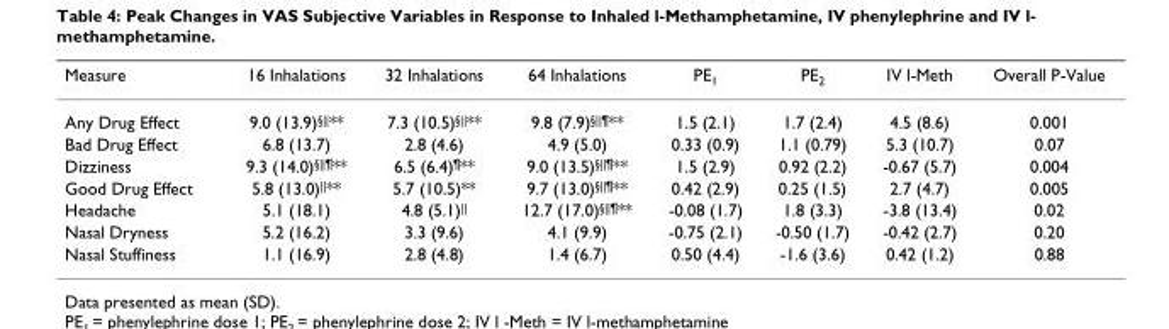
<table><thead><tr><td>Measure</td><td>16 Inhalations</td><td>32 Inhalations</td><td>64 Inhalations</td><td>PE<sub>1</sub></td><td>PE<sub>2</sub></td><td>IV l-Meth</td><td>Overall P-Value</td></tr></thead><tbody><tr><td>Any Drug Effect</td><td>9.0 (13.9)<sup>§||</sup>**</td><td>7.3 (10.5)<sup>§||</sup>**</td><td>9.8 (7.9)<sup>§||¶</sup>**</td><td>1.5 (2.1)</td><td>1.7 (2.4)</td><td>4.5 (8.6)</td><td>0.001</td></tr><tr><td>Bad Drug Effect</td><td>6.8 (13.7)</td><td>2.8 (4.6)</td><td>4.9 (5.0)</td><td>0.33 (0.9)</td><td>1.1 (0.79)</td><td>5.3 (10.7)</td><td>0.07</td></tr><tr><td>Dizziness</td><td>9.3 (14.0)<sup>§||¶</sup>**</td><td>6.5 (6.4)<sup>¶</sup>**</td><td>9.0 (13.5)<sup>§||¶</sup>**</td><td>1.5 (2.9)</td><td>0.92 (2.2)</td><td>-0.67 (5.7)</td><td>0.004</td></tr><tr><td>Good Drug Effect</td><td>5.8 (13.0)<sup>||</sup>**</td><td>5.7 (10.5)**</td><td>9.7 (13.0)<sup>§||¶</sup>**</td><td>0.42 (2.9)</td><td>0.25 (1.5)</td><td>2.7 (4.7)</td><td>0.005</td></tr><tr><td>Headache</td><td>5.1 (18.1)</td><td>4.8 (5.1)<sup>||</sup></td><td>12.7 (17.0)<sup>§||¶</sup>**</td><td>-0.08 (1.7)</td><td>1.8 (3.3)</td><td>-3.8 (13.4)</td><td>0.02</td></tr><tr><td>Nasal Dryness</td><td>5.2 (16.2)</td><td>3.3 (9.6)</td><td>4.1 (9.9)</td><td>-0.75 (2.1)</td><td>-0.50 (1.7)</td><td>-0.42 (2.7)</td><td>0.20</td></tr><tr><td>Nasal Stuffiness</td><td>1.1 (16.9)</td><td>2.8 (4.8)</td><td>1.4 (6.7)</td><td>0.50 (4.4)</td><td>-1.6 (3.6)</td><td>0.42 (1.2)</td><td>0.88</td></tr></tbody></table>